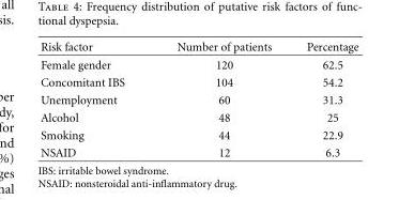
<table><thead><tr><td>Risk factor</td><td>Number of patients</td><td>Percentage</td></tr></thead><tbody><tr><td>Female gender</td><td>120</td><td>62.5</td></tr><tr><td>Concomitant IBS</td><td>104</td><td>54.2</td></tr><tr><td>Unemployment</td><td>60</td><td>31.3</td></tr><tr><td>Alcohol</td><td>48</td><td>25</td></tr><tr><td>Smoking</td><td>44</td><td>22.9</td></tr><tr><td>NSAID</td><td>12</td><td>6.3</td></tr></tbody></table>